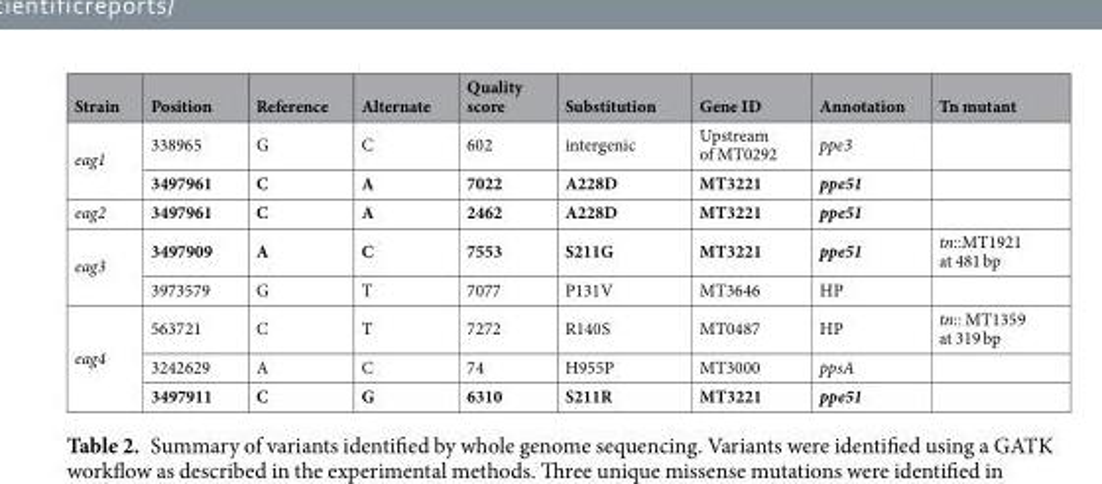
<table><thead><tr><td>Strain</td><td>Position</td><td>Reference</td><td>Alternate</td><td>Quality score</td><td>Substitution</td><td>Gene ID</td><td>Annotation</td><td>Tn mutant</td></tr></thead><tbody><tr><td rowspan="2">eag1</td><td>338965</td><td>G</td><td>C</td><td>602</td><td>intergenic</td><td>Upstream of MT0292</td><td>ppe3</td><td></td></tr><tr><td>3497961</td><td>C</td><td>A</td><td>7022</td><td>A228D</td><td>MT3221</td><td>ppe51</td><td></td></tr><tr><td>eag2</td><td>3497961</td><td>C</td><td>A</td><td>2462</td><td>A228D</td><td>MT3221</td><td>ppe51</td><td></td></tr><tr><td rowspan="2">eag3</td><td>3497909</td><td>A</td><td>C</td><td>7553</td><td>S211G</td><td>MT3221</td><td>ppe51</td><td>tn::MT1921 at 481 bp</td></tr><tr><td>3973579</td><td>G</td><td>T</td><td>7077</td><td>P131V</td><td>MT3646</td><td>HP</td><td></td></tr><tr><td rowspan="3">eag4</td><td>563721</td><td>C</td><td>T</td><td>7272</td><td>R140S</td><td>MT0487</td><td>HP</td><td>tn:: MT1359 at 319 bp</td></tr><tr><td>3242629</td><td>A</td><td>C</td><td>74</td><td>H955P</td><td>MT3000</td><td>ppsA</td><td></td></tr><tr><td>3497911</td><td>C</td><td>G</td><td>6310</td><td>S211R</td><td>MT3221</td><td>ppe51</td><td></td></tr></tbody></table>